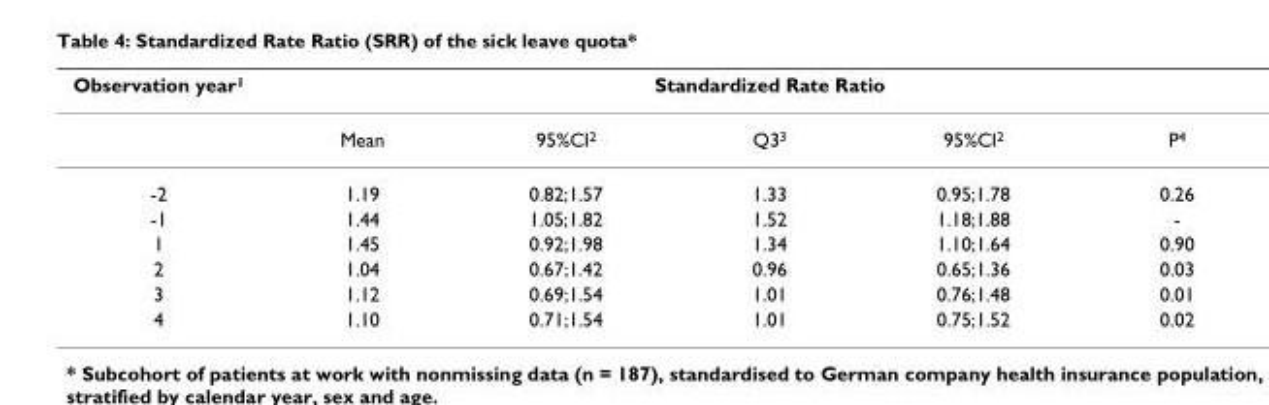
<table><thead><tr><td rowspan="2">Observation year1</td><td colspan="5">Standardized Rate Ratio</td></tr><tr><td>Mean</td><td>95%CI2</td><td>Q33</td><td>95%CI2</td><td>P4</td></tr></thead><tbody><tr><td>-2</td><td>1.19</td><td>0.82;1.57</td><td>1.33</td><td>0.95;1.78</td><td>0.26</td></tr><tr><td>-1</td><td>1.44</td><td>1.05;1.82</td><td>1.52</td><td>1.18;1.88</td><td>-</td></tr><tr><td>1</td><td>1.45</td><td>0.92;1.98</td><td>1.34</td><td>1.10;1.64</td><td>0.90</td></tr><tr><td>2</td><td>1.04</td><td>0.67;1.42</td><td>0.96</td><td>0.65;1.36</td><td>0.03</td></tr><tr><td>3</td><td>1.12</td><td>0.69;1.54</td><td>1.01</td><td>0.76;1.48</td><td>0.01</td></tr><tr><td>4</td><td>1.10</td><td>0.71;1.54</td><td>1.01</td><td>0.75;1.52</td><td>0.02</td></tr></tbody></table>